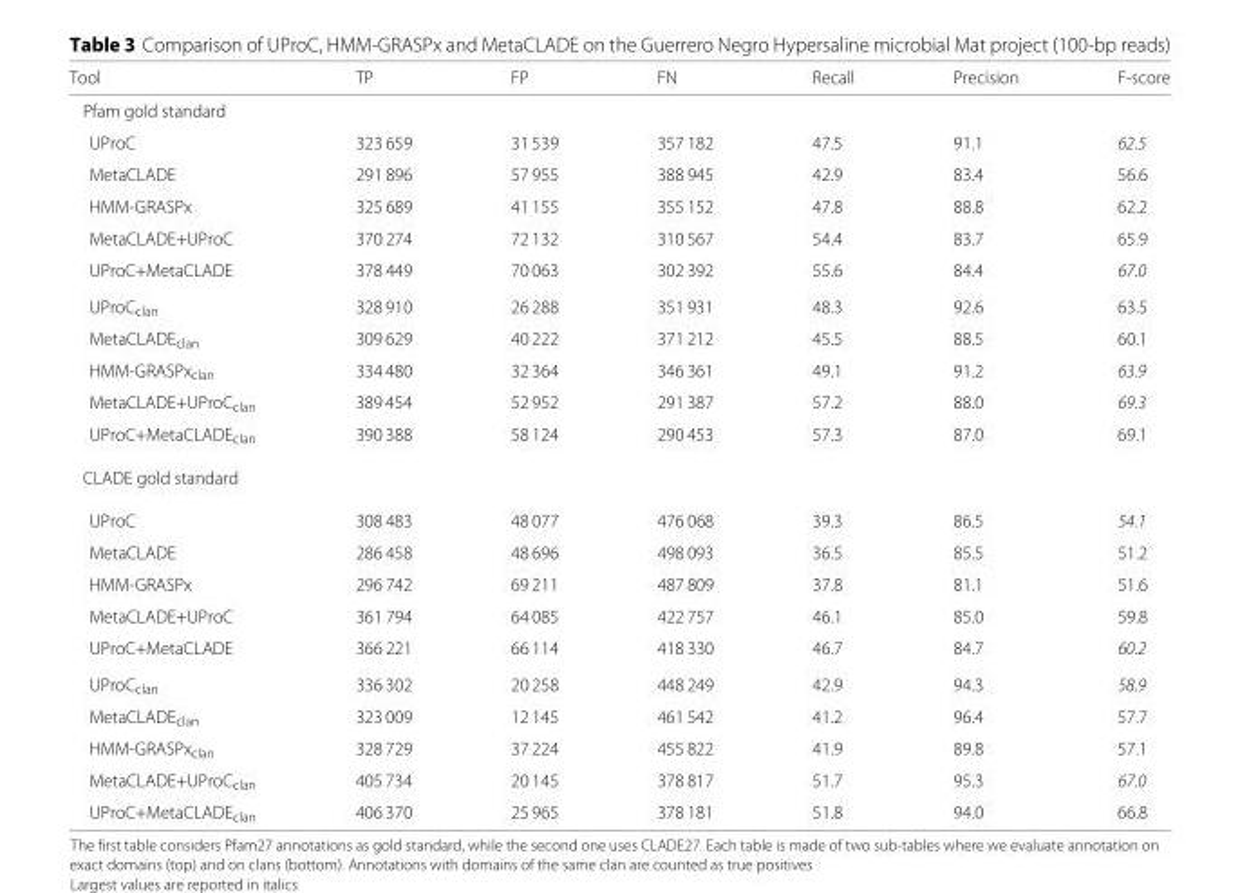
<table><thead><tr><td>Tool</td><td>TP</td><td>FP</td><td>FN</td><td>Recall</td><td>Precision</td><td>F-score</td></tr></thead><tbody><tr><td colspan="7">Pfam gold standard</td></tr><tr><td>UProC</td><td>323 659</td><td>31 539</td><td>357 182</td><td>47.5</td><td>91.1</td><td>62.5</td></tr><tr><td>MetaCLADE</td><td>291 896</td><td>57 955</td><td>388 945</td><td>42.9</td><td>83.4</td><td>56.6</td></tr><tr><td>HMM-GRASPx</td><td>325 689</td><td>41 155</td><td>355 152</td><td>47.8</td><td>88.8</td><td>62.2</td></tr><tr><td>MetaCLADE+UProC</td><td>370 274</td><td>72 132</td><td>310 567</td><td>54.4</td><td>83.7</td><td>65.9</td></tr><tr><td>UProC+MetaCLADE</td><td>378 449</td><td>70 063</td><td>302 392</td><td>55.6</td><td>84.4</td><td>67.0</td></tr><tr><td>UProC<sub>clan</sub></td><td>328 910</td><td>26 288</td><td>351 931</td><td>48.3</td><td>92.6</td><td>63.5</td></tr><tr><td>MetaCLADE<sub>clan</sub></td><td>309 629</td><td>40 222</td><td>371 212</td><td>45.5</td><td>88.5</td><td>60.1</td></tr><tr><td>HMM-GRASPx<sub>clan</sub></td><td>334 480</td><td>32 364</td><td>346 361</td><td>49.1</td><td>91.2</td><td>63.9</td></tr><tr><td>MetaCLADE+UProC<sub>clan</sub></td><td>389 454</td><td>52 952</td><td>291 387</td><td>57.2</td><td>88.0</td><td>69.3</td></tr><tr><td>UProC+MetaCLADE<sub>clan</sub></td><td>390 388</td><td>58 124</td><td>290 453</td><td>57.3</td><td>87.0</td><td>69.1</td></tr><tr><td colspan="7">CLADE gold standard</td></tr><tr><td>UProC</td><td>308 483</td><td>48 077</td><td>476 068</td><td>39.3</td><td>86.5</td><td>54.1</td></tr><tr><td>MetaCLADE</td><td>286 458</td><td>48 696</td><td>498 093</td><td>36.5</td><td>85.5</td><td>51.2</td></tr><tr><td>HMM-GRASPx</td><td>296 742</td><td>69 211</td><td>487 809</td><td>37.8</td><td>81.1</td><td>51.6</td></tr><tr><td>MetaCLADE+UProC</td><td>361 794</td><td>64 085</td><td>422 757</td><td>46.1</td><td>85.0</td><td>59.8</td></tr><tr><td>UProC+MetaCLADE</td><td>366 221</td><td>66 114</td><td>418 330</td><td>46.7</td><td>84.7</td><td>60.2</td></tr><tr><td>UProC<sub>clan</sub></td><td>336 302</td><td>20 258</td><td>448 249</td><td>42.9</td><td>94.3</td><td>58.9</td></tr><tr><td>MetaCLADE<sub>clan</sub></td><td>323 009</td><td>12 145</td><td>461 542</td><td>41.2</td><td>96.4</td><td>57.7</td></tr><tr><td>HMM-GRASPx<sub>clan</sub></td><td>328 729</td><td>37 224</td><td>455 822</td><td>41.9</td><td>89.8</td><td>57.1</td></tr><tr><td>MetaCLADE+UProC<sub>clan</sub></td><td>405 734</td><td>20 145</td><td>378 817</td><td>51.7</td><td>95.3</td><td>67.0</td></tr><tr><td>UProC+MetaCLADE<sub>clan</sub></td><td>406 370</td><td>25 965</td><td>378 181</td><td>51.8</td><td>94.0</td><td>66.8</td></tr></tbody></table>